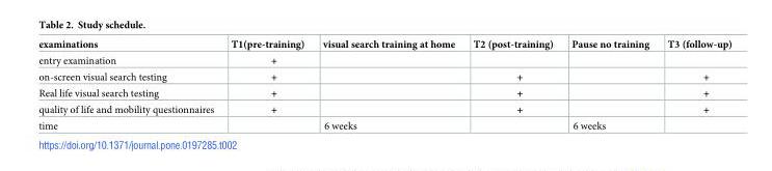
<table><thead><tr><td>examinations</td><td>T1(pre-training)</td><td>visual search training at home</td><td>T2 (post-training)</td><td>Pause no training</td><td>T3 (follow-up)</td></tr></thead><tbody><tr><td>entry examination</td><td>+</td><td></td><td></td><td></td><td></td></tr><tr><td>on-screen visual search testing</td><td>+</td><td></td><td>+</td><td></td><td>+</td></tr><tr><td>Real life visual search testing</td><td>+</td><td></td><td>+</td><td></td><td>+</td></tr><tr><td>quality of life and mobility questionnaires</td><td>+</td><td></td><td>+</td><td></td><td>+</td></tr><tr><td>time</td><td></td><td>6 weeks</td><td></td><td>6 weeks</td><td></td></tr></tbody></table>